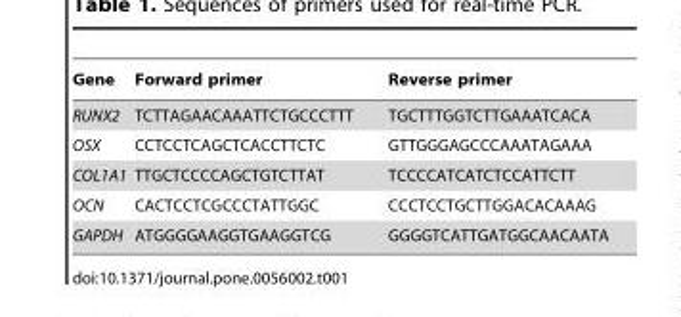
<table><thead><tr><td>Gene</td><td>Forward primer</td><td>Reverse primer</td></tr></thead><tbody><tr><td>RUNX2</td><td>TCTTAGAACAAATTCTGCCCTTT</td><td>TGCTTTGGTCTTGAAATCACA</td></tr><tr><td>OSX</td><td>CCTCCTCAGCTCACCTTCTC</td><td>GTTGGGAGCCCAAATAGAAA</td></tr><tr><td>COL1A1</td><td>TTGCTCCCCAGCTGTCTTAT</td><td>TCCCCATCATCTCCATTCTT</td></tr><tr><td>OCN</td><td>CACTCCTCGCCCTATTGGC</td><td>CCCTCCTGCTTGGACACAAAG</td></tr><tr><td>GAPDH</td><td>ATGGGGAAGGTGAAGGTCG</td><td>GGGGTCATTGATGGCAACAATA</td></tr></tbody></table>